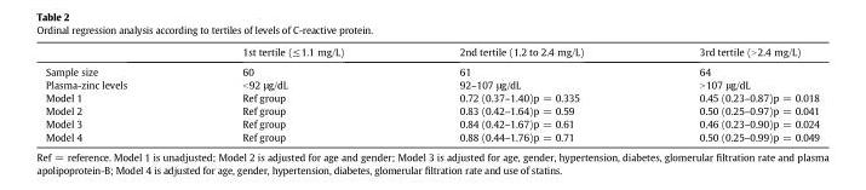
<table><thead><tr><td></td><td>1st tertile (≤1.1 mg/L)</td><td>2nd tertile (1.2 to 2.4 mg/L)</td><td>3rd tertile (&gt;2.4 mg/L)</td></tr></thead><tbody><tr><td>Sample size</td><td>60</td><td>61</td><td>64</td></tr><tr><td>Plasma-zinc levels</td><td>&lt;92 μg/dL</td><td>92–107 μg/dL</td><td>&gt;107 μg/dL</td></tr><tr><td>Model 1</td><td>Ref group</td><td>0.72 (0.37–1.40)p = 0.335</td><td>0.45 (0.23–0.87)p = 0.018</td></tr><tr><td>Model 2</td><td>Ref group</td><td>0.83 (0.42–1.64)p = 0.59</td><td>0.50 (0.25–0.97)p = 0.041</td></tr><tr><td>Model 3</td><td>Ref group</td><td>0.84 (0.42–1.67)p = 0.61</td><td>0.46 (0.23–0.90)p = 0.024</td></tr><tr><td>Model 4</td><td>Ref group</td><td>0.88 (0.44–1.76)p = 0.71</td><td>0.50 (0.25–0.99)p = 0.049</td></tr></tbody></table>